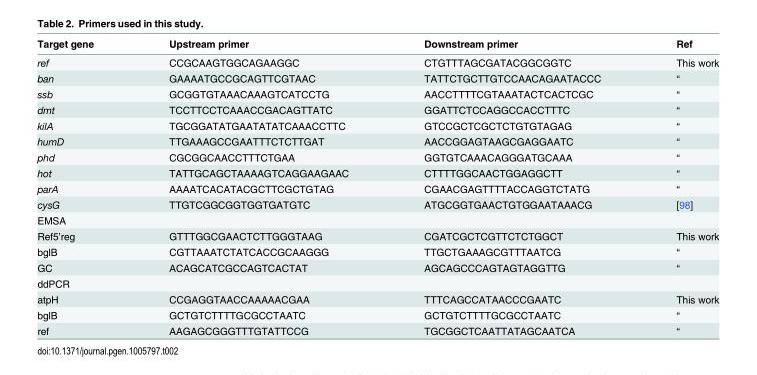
<table><thead><tr><td>Target gene</td><td>Upstream primer</td><td>Downstream primer</td><td>Ref</td></tr></thead><tbody><tr><td>ref</td><td>CCGCAAGTGGCAGAAGGC</td><td>CTGTTTAGCGATACGGCGGTC</td><td>This work</td></tr><tr><td>ban</td><td>GAAAATGCCGCAGTTCGTAAC</td><td>TATTCTGCTTGTCCAACAGAATACCC</td><td>“</td></tr><tr><td>ssb</td><td>GCGGTGTAAACAAAGTCATCCTG</td><td>AACCTTTTCGTAAATACTCACTCGC</td><td>“</td></tr><tr><td>dmt</td><td>TCCTTCCTCAAACCGACAGTTATC</td><td>GGATTCTCCAGGCCACCTTTC</td><td>“</td></tr><tr><td>kilA</td><td>TGCGGATATGAATATATCAAACCTTC</td><td>GTCCGCTCGCTCTGTGTAGAG</td><td>“</td></tr><tr><td>humD</td><td>TTGAAAGCCGAATTTCTCTTGAT</td><td>AACCGGAGTAAGCGAGGAATC</td><td>“</td></tr><tr><td>phd</td><td>CGCGGCAACCTTTCTGAA</td><td>GGTGTCAAACAGGGATGCAAA</td><td>“</td></tr><tr><td>hot</td><td>TATTGCAGCTAAAAGTCAGGAAGAAC</td><td>CTTTTGGCAACTGGAGGCTT</td><td>“</td></tr><tr><td>parA</td><td>AAAATCACATACGCTTCGCTGTAG</td><td>CGAACGAGTTTTACCAGGTCTATG</td><td>“</td></tr><tr><td>cysG</td><td>TTGTCGGCGGTGGTGATGTC</td><td>ATGCGGTGAACTGTGGAATAAACG</td><td>[98]</td></tr><tr><td colspan="4">EMSA</td></tr><tr><td>Ref5’reg</td><td>GTTTGGCGAACTCTTGGGTAAG</td><td>CGATCGCTCGTTCTCTGGCT</td><td>This work</td></tr><tr><td>bglB</td><td>CGTTAAATCTATCACCGCAAGGG</td><td>TTGCTGAAAGCGTTTAATCG</td><td>“</td></tr><tr><td>GC</td><td>ACAGCATCGCCAGTCACTAT</td><td>AGCAGCCCAGTAGTAGGTTG</td><td>“</td></tr><tr><td colspan="4">ddPCR</td></tr><tr><td>atpH</td><td>CCGAGGTAACCAAAAACGAA</td><td>TTTCAGCCATAACCCGAATC</td><td>This work</td></tr><tr><td>bglB</td><td>GCTGTCTTTTGCGCCTAATC</td><td>GCTGTCTTTTGCGCCTAATC</td><td>“</td></tr><tr><td>ref</td><td>AAGAGCGGGTTTGTATTCCG</td><td>TGCGGCTCAATTATAGCAATCA</td><td>“</td></tr></tbody></table>